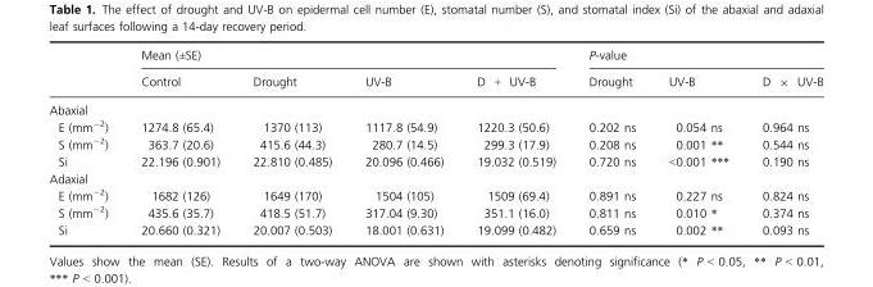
<table><thead><tr><td rowspan="2"></td><td colspan="4">Mean (±SE)</td><td colspan="3">P-value</td></tr><tr><td>Control</td><td>Drought</td><td>UV-B</td><td>D + UV-B</td><td>Drought</td><td>UV-B</td><td>D × UV-B</td></tr></thead><tbody><tr><td colspan="8">Abaxial</td></tr><tr><td>E (mm<sup>−2</sup>)</td><td>1274.8 (65.4)</td><td>1370 (113)</td><td>1117.8 (54.9)</td><td>1220.3 (50.6)</td><td>0.202 ns</td><td>0.054 ns</td><td>0.964 ns</td></tr><tr><td>S (mm<sup>−2</sup>)</td><td>363.7 (20.6)</td><td>415.6 (44.3)</td><td>280.7 (14.5)</td><td>299.3 (17.9)</td><td>0.208 ns</td><td>0.001 **</td><td>0.544 ns</td></tr><tr><td>Si</td><td>22.196 (0.901)</td><td>22.810 (0.485)</td><td>20.096 (0.466)</td><td>19.032 (0.519)</td><td>0.720 ns</td><td>&lt;0.001 ***</td><td>0.190 ns</td></tr><tr><td colspan="8">Adaxial</td></tr><tr><td>E (mm<sup>−2</sup>)</td><td>1682 (126)</td><td>1649 (170)</td><td>1504 (105)</td><td>1509 (69.4)</td><td>0.891 ns</td><td>0.227 ns</td><td>0.824 ns</td></tr><tr><td>S (mm<sup>−2</sup>)</td><td>435.6 (35.7)</td><td>418.5 (51.7)</td><td>317.04 (9.30)</td><td>351.1 (16.0)</td><td>0.811 ns</td><td>0.010 *</td><td>0.374 ns</td></tr><tr><td>Si</td><td>20.660 (0.321)</td><td>20.007 (0.503)</td><td>18.001 (0.631)</td><td>19.099 (0.482)</td><td>0.659 ns</td><td>0.002 **</td><td>0.093 ns</td></tr></tbody></table>